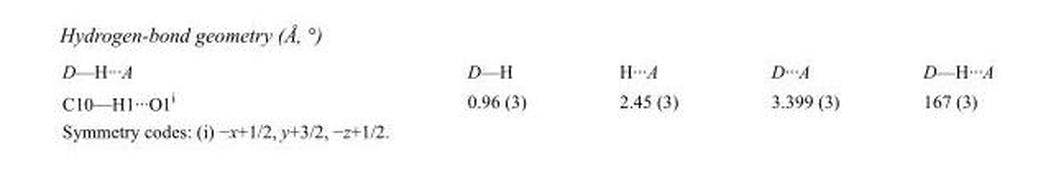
<table><tbody><tr><td>D—H···A</td><td>D—H</td><td>H···A</td><td>D···A</td><td>D—H···A</td></tr><tr><td>C10—H1···O1<sup>i</sup></td><td>0.96 (3)</td><td>2.45 (3)</td><td>3.399 (3)</td><td>167 (3)</td></tr></tbody></table>